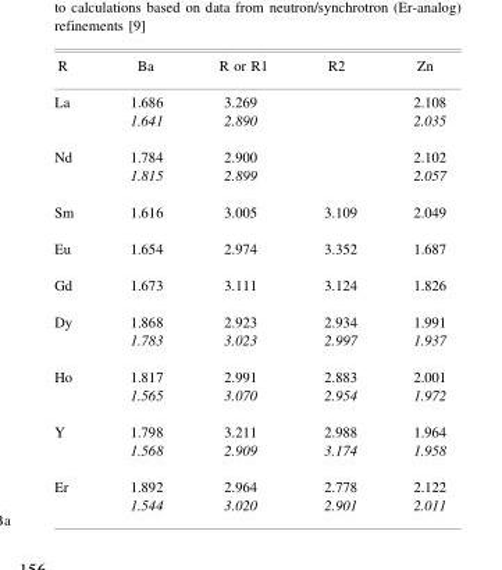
<table><thead><tr><td>R</td><td>Ba</td><td>R or R1</td><td>R2</td><td>Zn</td></tr></thead><tbody><tr><td rowspan="2">La</td><td>1.686</td><td>3.269</td><td></td><td>2.108</td></tr><tr><td>1.641</td><td>2.890</td><td></td><td>2.035</td></tr><tr><td rowspan="2">Nd</td><td>1.784</td><td>2.900</td><td></td><td>2.102</td></tr><tr><td>1.815</td><td>2.899</td><td></td><td>2.057</td></tr><tr><td>Sm</td><td>1.616</td><td>3.005</td><td>3.109</td><td>2.049</td></tr><tr><td>Eu</td><td>1.654</td><td>2.974</td><td>3.352</td><td>1.687</td></tr><tr><td>Gd</td><td>1.673</td><td>3.111</td><td>3.124</td><td>1.826</td></tr><tr><td rowspan="2">Dy</td><td>1.868</td><td>2.923</td><td>2.934</td><td>1.991</td></tr><tr><td>1.783</td><td>3.023</td><td>2.997</td><td>1.937</td></tr><tr><td rowspan="2">Ho</td><td>1.817</td><td>2.991</td><td>2.883</td><td>2.001</td></tr><tr><td>1.565</td><td>3.070</td><td>2.954</td><td>1.972</td></tr><tr><td rowspan="2">Y</td><td>1.798</td><td>3.211</td><td>2.988</td><td>1.964</td></tr><tr><td>1.568</td><td>2.909</td><td>3.174</td><td>1.958</td></tr><tr><td rowspan="2">Er</td><td>1.892</td><td>2.964</td><td>2.778</td><td>2.122</td></tr><tr><td>1.544</td><td>3.020</td><td>2.901</td><td>2.011</td></tr></tbody></table>